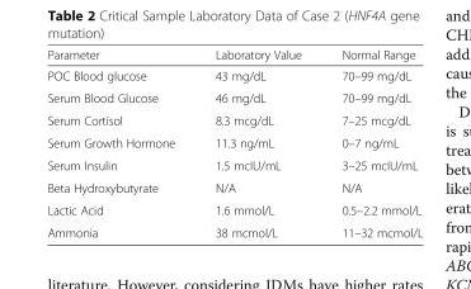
<table><thead><tr><td>Parameter</td><td>Laboratory Value</td><td>Normal Range</td></tr></thead><tbody><tr><td>POC Blood glucose</td><td>43 mg/dL</td><td>70–99 mg/dL</td></tr><tr><td>Serum Blood Glucose</td><td>46 mg/dL</td><td>70–99 mg/dL</td></tr><tr><td>Serum Cortisol</td><td>8.3 mcg/dL</td><td>7–25 mcg/dL</td></tr><tr><td>Serum Growth Hormone</td><td>11.3 ng/mL</td><td>0–7 ng/mL</td></tr><tr><td>Serum Insulin</td><td>1.5 mcIU/mL</td><td>3–25 mcIU/mL</td></tr><tr><td>Beta Hydroxybutyrate</td><td>N/A</td><td>N/A</td></tr><tr><td>Lactic Acid</td><td>1.6 mmol/L</td><td>0.5–2.2 mmol/L</td></tr><tr><td>Ammonia</td><td>38 mcmol/L</td><td>11–32 mcmol/L</td></tr></tbody></table>